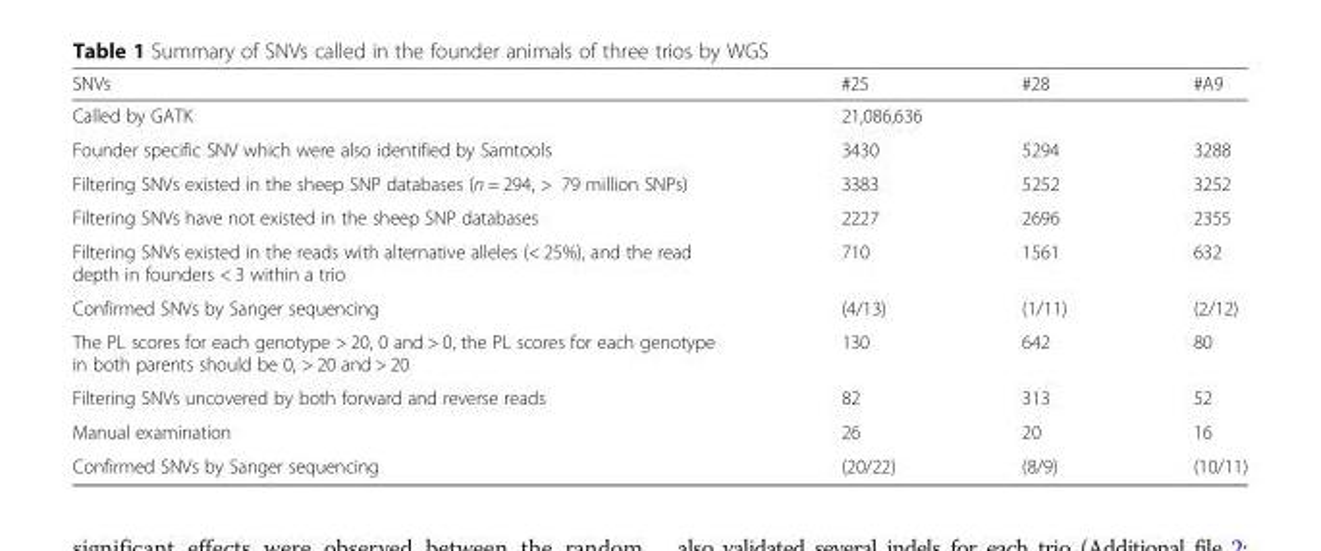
<table><thead><tr><td>SNVs</td><td>#25</td><td>#28</td><td>#A9</td></tr></thead><tbody><tr><td>Called by GATK</td><td colspan="3">21,086,636</td></tr><tr><td>Founder specific SNV which were also identified by Samtools</td><td>3430</td><td>5294</td><td>3288</td></tr><tr><td>Filtering SNVs existed in the sheep SNP databases (n = 294, &gt; 79 million SNPs)</td><td>3383</td><td>5252</td><td>3252</td></tr><tr><td>Filtering SNVs have not existed in the sheep SNP databases</td><td>2227</td><td>2696</td><td>2355</td></tr><tr><td>Filtering SNVs existed in the reads with alternative alleles (&lt; 25%), and the read depth in founders &lt; 3 within a trio</td><td>710</td><td>1561</td><td>632</td></tr><tr><td>Confirmed SNVs by Sanger sequencing</td><td>(4/13)</td><td>(1/11)</td><td>(2/12)</td></tr><tr><td>The PL scores for each genotype &gt; 20, 0 and &gt; 0, the PL scores for each genotype in both parents should be 0, &gt; 20 and &gt; 20</td><td>130</td><td>642</td><td>80</td></tr><tr><td>Filtering SNVs uncovered by both forward and reverse reads</td><td>82</td><td>313</td><td>52</td></tr><tr><td>Manual examination</td><td>26</td><td>20</td><td>16</td></tr><tr><td>Confirmed SNVs by Sanger sequencing</td><td>(20/22)</td><td>(8/9)</td><td>(10/11)</td></tr></tbody></table>